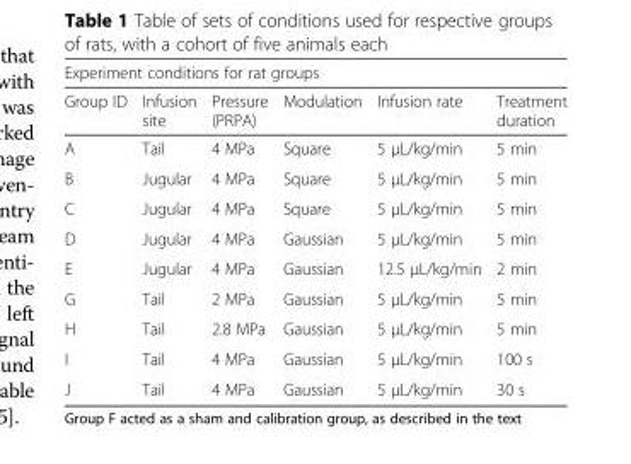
<table><thead><tr><td colspan="6">Experiment conditions for rat groups</td></tr><tr><td>Group ID</td><td>Infusion site</td><td>Pressure (PRPA)</td><td>Modulation</td><td>Infusion rate</td><td>Treatment duration</td></tr></thead><tbody><tr><td>A</td><td>Tail</td><td>4 MPa</td><td>Square</td><td>5 μL/kg/min</td><td>5 min</td></tr><tr><td>B</td><td>Jugular</td><td>4 MPa</td><td>Square</td><td>5 μL/kg/min</td><td>5 min</td></tr><tr><td>C</td><td>Jugular</td><td>4 MPa</td><td>Square</td><td>5 μL/kg/min</td><td>5 min</td></tr><tr><td>D</td><td>Jugular</td><td>4 MPa</td><td>Gaussian</td><td>5 μL/kg/min</td><td>5 min</td></tr><tr><td>E</td><td>Jugular</td><td>4 MPa</td><td>Gaussian</td><td>12.5 μL/kg/min</td><td>2 min</td></tr><tr><td>G</td><td>Tail</td><td>2 MPa</td><td>Gaussian</td><td>5 μL/kg/min</td><td>5 min</td></tr><tr><td>H</td><td>Tail</td><td>2.8 MPa</td><td>Gaussian</td><td>5 μL/kg/min</td><td>5 min</td></tr><tr><td>I</td><td>Tail</td><td>4 MPa</td><td>Gaussian</td><td>5 μL/kg/min</td><td>100 s</td></tr><tr><td>J</td><td>Tail</td><td>4 MPa</td><td>Gaussian</td><td>5 μL/kg/min</td><td>30 s</td></tr></tbody></table>